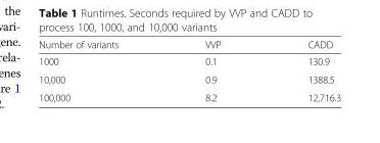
<table><thead><tr><td>Number of variants</td><td>VVP</td><td>CADD</td></tr></thead><tbody><tr><td>1000</td><td>0.1</td><td>130.9</td></tr><tr><td>10,000</td><td>0.9</td><td>1388.5</td></tr><tr><td>100,000</td><td>8.2</td><td>12,716.3</td></tr></tbody></table>